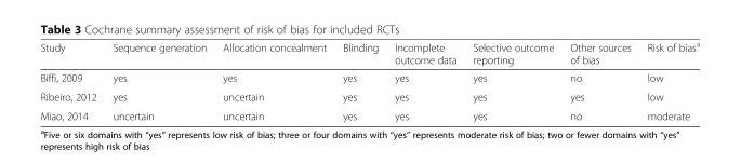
<table><thead><tr><td>Study</td><td>Sequence generation</td><td>Allocation concealment</td><td>Blinding</td><td>Incomplete outcome data</td><td>Selective outcome reporting</td><td>Other sources of bias</td><td>Risk of bias<sup>a</sup></td></tr></thead><tbody><tr><td>Biffi, 2009</td><td>yes</td><td>yes</td><td>yes</td><td>yes</td><td>yes</td><td>no</td><td>low</td></tr><tr><td>Ribeiro, 2012</td><td>yes</td><td>uncertain</td><td>yes</td><td>yes</td><td>yes</td><td>yes</td><td>low</td></tr><tr><td>Miao, 2014</td><td>uncertain</td><td>uncertain</td><td>yes</td><td>yes</td><td>yes</td><td>no</td><td>moderate</td></tr></tbody></table>